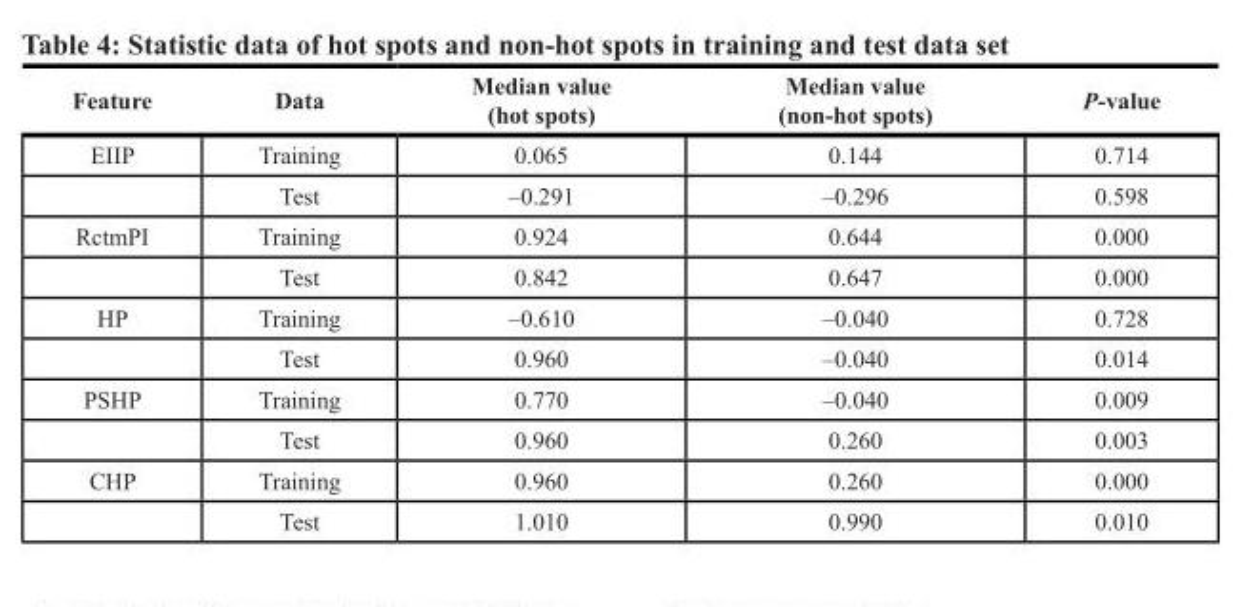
<table><thead><tr><td>Feature</td><td>Data</td><td>Median value (hot spots)</td><td>Median value (non-hot spots)</td><td>P-value</td></tr></thead><tbody><tr><td rowspan="2">EIIP</td><td>Training</td><td>0.065</td><td>0.144</td><td>0.714</td></tr><tr><td>Test</td><td>–0.291</td><td>–0.296</td><td>0.598</td></tr><tr><td rowspan="2">RctmPI</td><td>Training</td><td>0.924</td><td>0.644</td><td>0.000</td></tr><tr><td>Test</td><td>0.842</td><td>0.647</td><td>0.000</td></tr><tr><td rowspan="2">HP</td><td>Training</td><td>–0.610</td><td>–0.040</td><td>0.728</td></tr><tr><td>Test</td><td>0.960</td><td>–0.040</td><td>0.014</td></tr><tr><td rowspan="2">PSHP</td><td>Training</td><td>0.770</td><td>–0.040</td><td>0.009</td></tr><tr><td>Test</td><td>0.960</td><td>0.260</td><td>0.003</td></tr><tr><td rowspan="2">CHP</td><td>Training</td><td>0.960</td><td>0.260</td><td>0.000</td></tr><tr><td>Test</td><td>1.010</td><td>0.990</td><td>0.010</td></tr></tbody></table>